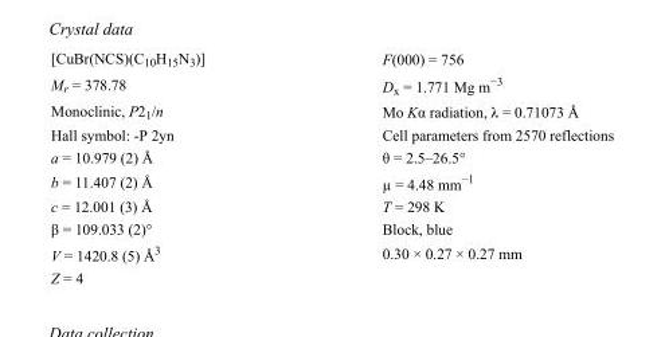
<table><tbody><tr><td>[CuBr(NCS)(C<sub>10</sub>H<sub>15</sub>N<sub>3</sub>)]</td><td>F(000) = 756</td></tr><tr><td>M<sub>r</sub> = 378.78</td><td>D<sub>x</sub> = 1.771 Mg m<sup>−3</sup></td></tr><tr><td>Monoclinic, P2<sub>1</sub>/n</td><td>Mo Kα radiation, λ = 0.71073 Å</td></tr><tr><td>Hall symbol: -P 2yn</td><td>Cell parameters from 2570 reflections</td></tr><tr><td>a = 10.979 (2) Å</td><td>θ = 2.5–26.5°</td></tr><tr><td>b = 11.407 (2) Å</td><td>µ = 4.48 mm<sup>−1</sup></td></tr><tr><td>c = 12.001 (3) Å</td><td>T = 298 K</td></tr><tr><td>β = 109.033 (2)°</td><td>Block, blue</td></tr><tr><td>V = 1420.8 (5) Å<sup>3</sup></td><td>0.30 × 0.27 × 0.27 mm</td></tr><tr><td>Z = 4</td><td></td></tr></tbody></table>